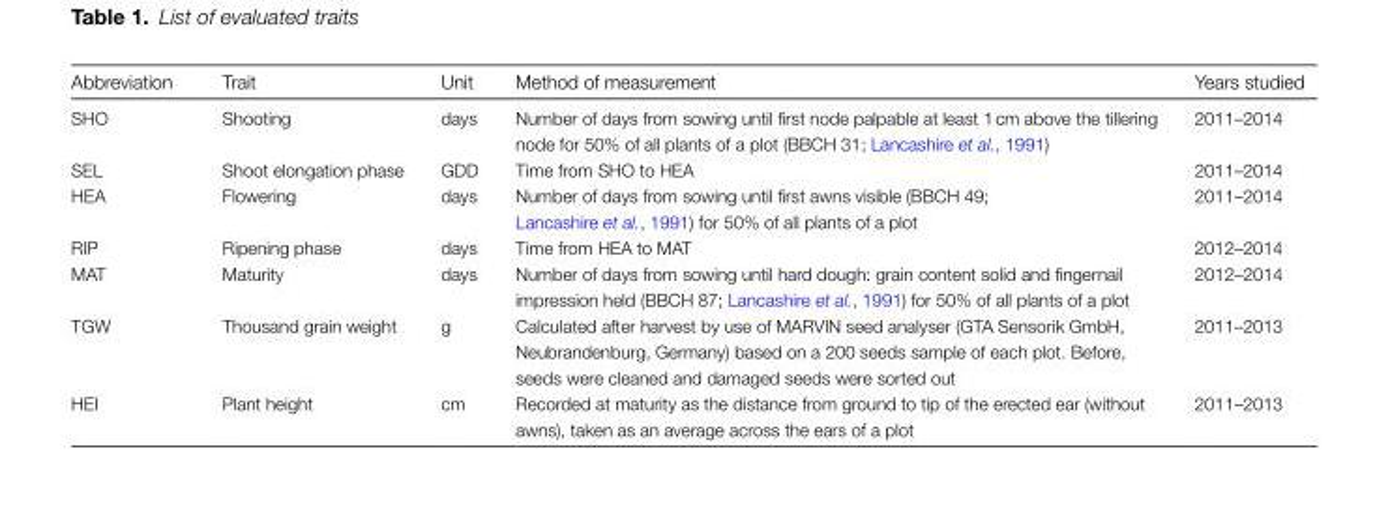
<table><thead><tr><td>Abbreviation</td><td>Trait</td><td>Unit</td><td>Method of measurement</td><td>Years studied</td></tr></thead><tbody><tr><td>SHO</td><td>Shooting</td><td>days</td><td>Number of days from sowing until first node palpable at least 1 cm above the tillering node for 50% of all plants of a plot (BBCH 31; Lancashire et al., 1991)</td><td>2011–2014</td></tr><tr><td>SEL</td><td>Shoot elongation phase</td><td>GDD</td><td>Time from SHO to HEA</td><td>2011–2014</td></tr><tr><td>HEA</td><td>Flowering</td><td>days</td><td>Number of days from sowing until first awns visible (BBCH 49; Lancashire et al., 1991) for 50% of all plants of a plot</td><td>2011–2014</td></tr><tr><td>RIP</td><td>Ripening phase</td><td>days</td><td>Time from HEA to MAT</td><td>2012–2014</td></tr><tr><td>MAT</td><td>Maturity</td><td>days</td><td>Number of days from sowing until hard dough: grain content solid and fingernail impression held (BBCH 87; Lancashire et al., 1991) for 50% of all plants of a plot</td><td>2012–2014</td></tr><tr><td>TGW</td><td>Thousand grain weight</td><td>g</td><td>Calculated after harvest by use of MARVIN seed analyser (GTA Sensorik GmbH, Neubrandenburg, Germany) based on a 200 seeds sample of each plot. Before, seeds were cleaned and damaged seeds were sorted out</td><td>2011–2013</td></tr><tr><td>HEI</td><td>Plant height</td><td>cm</td><td>Recorded at maturity as the distance from ground to tip of the erected ear (without awns), taken as an average across the ears of a plot</td><td>2011–2013</td></tr></tbody></table>